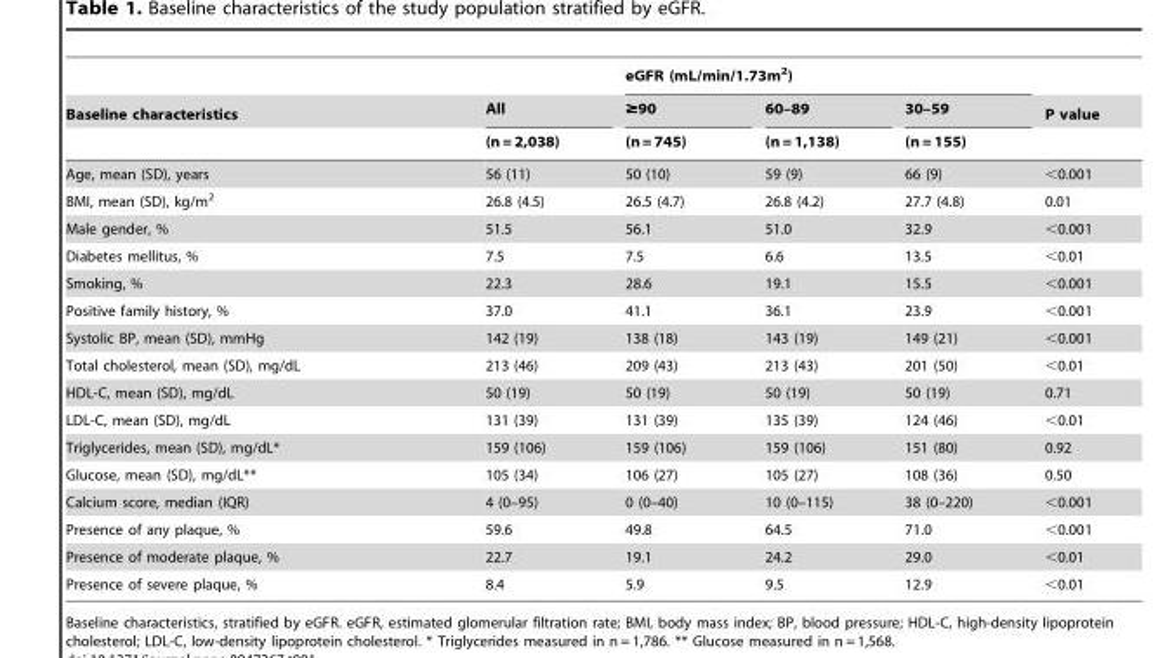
<table><thead><tr><td rowspan="3">Baseline characteristics</td><td rowspan="3">All (n = 2,038)</td><td colspan="3">eGFR (mL/min/1.73m<sup>2</sup>)</td><td rowspan="3">P value</td></tr><tr><td rowspan="2">≥90 (n = 745)</td><td rowspan="2">60–89 (n = 1,138)</td><td rowspan="2">30–59 (n = 155)</td></tr><tr></tr></thead><tbody><tr><td>Age, mean (SD), years</td><td>56 (11)</td><td>50 (10)</td><td>59 (9)</td><td>66 (9)</td><td>&lt;0.001</td></tr><tr><td>BMI, mean (SD), kg/m<sup>2</sup></td><td>26.8 (4.5)</td><td>26.5 (4.7)</td><td>26.8 (4.2)</td><td>27.7 (4.8)</td><td>0.01</td></tr><tr><td>Male gender, %</td><td>51.5</td><td>56.1</td><td>51.0</td><td>32.9</td><td>&lt;0.001</td></tr><tr><td>Diabetes mellitus, %</td><td>7.5</td><td>7.5</td><td>6.6</td><td>13.5</td><td>&lt;0.01</td></tr><tr><td>Smoking, %</td><td>22.3</td><td>28.6</td><td>19.1</td><td>15.5</td><td>&lt;0.001</td></tr><tr><td>Positive family history, %</td><td>37.0</td><td>41.1</td><td>36.1</td><td>23.9</td><td>&lt;0.001</td></tr><tr><td>Systolic BP, mean (SD), mmHg</td><td>142 (19)</td><td>138 (18)</td><td>143 (19)</td><td>149 (21)</td><td>&lt;0.001</td></tr><tr><td>Total cholesterol, mean (SD), mg/dL</td><td>213 (46)</td><td>209 (43)</td><td>213 (43)</td><td>201 (50)</td><td>&lt;0.01</td></tr><tr><td>HDL-C, mean (SD), mg/dL</td><td>50 (19)</td><td>50 (19)</td><td>50 (19)</td><td>50 (19)</td><td>0.71</td></tr><tr><td>LDL-C, mean (SD), mg/dL</td><td>131 (39)</td><td>131 (39)</td><td>135 (39)</td><td>124 (46)</td><td>&lt;0.01</td></tr><tr><td>Triglycerides, mean (SD), mg/dL*</td><td>159 (106)</td><td>159 (106)</td><td>159 (106)</td><td>151 (80)</td><td>0.92</td></tr><tr><td>Glucose, mean (SD), mg/dL**</td><td>105 (34)</td><td>106 (27)</td><td>105 (27)</td><td>108 (36)</td><td>0.50</td></tr><tr><td>Calcium score, median (IQR)</td><td>4 (0–95)</td><td>0 (0–40)</td><td>10 (0–115)</td><td>38 (0–220)</td><td>&lt;0.001</td></tr><tr><td>Presence of any plaque, %</td><td>59.6</td><td>49.8</td><td>64.5</td><td>71.0</td><td>&lt;0.001</td></tr><tr><td>Presence of moderate plaque, %</td><td>22.7</td><td>19.1</td><td>24.2</td><td>29.0</td><td>&lt;0.01</td></tr><tr><td>Presence of severe plaque, %</td><td>8.4</td><td>5.9</td><td>9.5</td><td>12.9</td><td>&lt;0.01</td></tr></tbody></table>